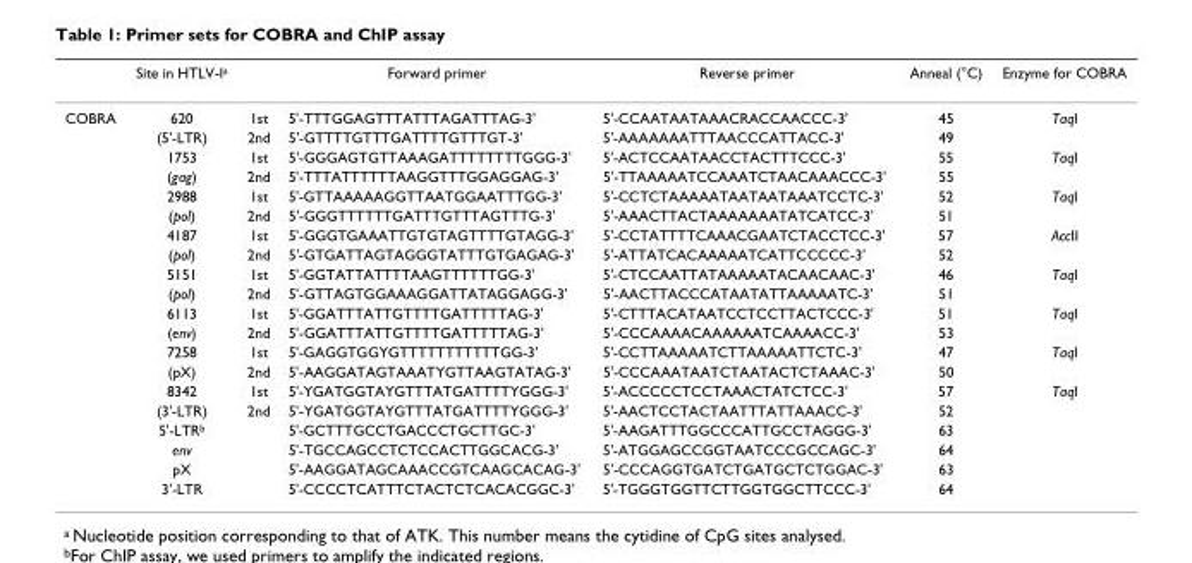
<table><thead><tr><td></td><td>Site in HTLV-I<sup>a</sup></td><td></td><td>Forward primer</td><td>Reverse primer</td><td>Anneal (°C)</td><td>Enzyme for COBRA</td></tr></thead><tbody><tr><td rowspan="20">COBRA</td><td>620</td><td>1st</td><td>5&#x27;-TTTGGAGTTTATTTAGATTTAG-3&#x27;</td><td>5&#x27;-CCAATAATAAACRACCAACCC-3&#x27;</td><td>45</td><td>TaqI</td></tr><tr><td>(5&#x27;-LTR)</td><td>2nd</td><td>5&#x27;-GTTTTGTTTGATTTTGTTTGT-3&#x27;</td><td>5&#x27;-AAAAAAATTTAACCCATTACC-3&#x27;</td><td>49</td><td></td></tr><tr><td>1753</td><td>1st</td><td>5&#x27;-GGGAGTGTTAAAGATTTTTTTTGGG-3&#x27;</td><td>5&#x27;-ACTCCAATAACCTACTTTCCC-3&#x27;</td><td>55</td><td>TaqI</td></tr><tr><td>(gag)</td><td>2nd</td><td>5&#x27;-TTTATTTTTTAAGGTTTGGAGGAG-3&#x27;</td><td>5&#x27;-TTAAAAATCCAAATCTAACAAACCC-3&#x27;</td><td>55</td><td></td></tr><tr><td>2988</td><td>1st</td><td>5&#x27;-GTTAAAAAGGTTAATGGAATTTGG-3&#x27;</td><td>5&#x27;-CCTCTAAAAATAATAATAAATCCTC-3&#x27;</td><td>52</td><td>TaqI</td></tr><tr><td>(pol)</td><td>2nd</td><td>5&#x27;-GGGTTTTTTGATTTGTTTAGTTTG-3&#x27;</td><td>5&#x27;-AAACTTACTAAAAAAATATCATCC-3&#x27;</td><td>51</td><td></td></tr><tr><td>4187</td><td>1st</td><td>5&#x27;-GGGTGAAATTGTGTAGTTTTGTAGG-3&#x27;</td><td>5&#x27;-CCTATTTTCAAACGAATCTACCTCC-3&#x27;</td><td>57</td><td>AccII</td></tr><tr><td>(pol)</td><td>2nd</td><td>5&#x27;-GTGATTAGTAGGGTATTTGTGAGAG-3&#x27;</td><td>5&#x27;-ATTATCACAAAAATCATTCCCCC-3&#x27;</td><td>52</td><td></td></tr><tr><td>5151</td><td>1st</td><td>5&#x27;-GGTATTATTTTAAGTTTTTTGG-3&#x27;</td><td>5&#x27;-CTCCAATTATAAAAATACAACAAC-3&#x27;</td><td>46</td><td>TaqI</td></tr><tr><td>(pol)</td><td>2nd</td><td>5&#x27;-GTTAGTGGAAAGGATTATAGGAGG-3&#x27;</td><td>5&#x27;-AACTTACCCATAATATTAAAAATC-3&#x27;</td><td>51</td><td></td></tr><tr><td>6113</td><td>1st</td><td>5&#x27;-GGATTTATTGTTTTGATTTTTAG-3&#x27;</td><td>5&#x27;-CTTTACATAATCCTCCTTACTCCC-3&#x27;</td><td>51</td><td>TaqI</td></tr><tr><td>(env)</td><td>2nd</td><td>5&#x27;-GGATTTATTGTTTTGATTTTTAG-3&#x27;</td><td>5&#x27;-CCCAAAACAAAAAATCAAAACC-3&#x27;</td><td>53</td><td></td></tr><tr><td>7258</td><td>1st</td><td>5&#x27;-GAGGTGGYGTTTTTTTTTTTGG-3&#x27;</td><td>5&#x27;-CCTTAAAAATCTTAAAAATTCTC-3&#x27;</td><td>47</td><td>TaqI</td></tr><tr><td>(pX)</td><td>2nd</td><td>5&#x27;-AAGGATAGTAAATYGTTAAGTATAG-3&#x27;</td><td>5&#x27;-CCCAAATAATCTAATACTCTAAAC-3&#x27;</td><td>50</td><td></td></tr><tr><td>8342</td><td>1st</td><td>5&#x27;-YGATGGTAYGTTTATGATTTTYGGG-3&#x27;</td><td>5&#x27;-ACCCCCTCCTAAACTATCTCC-3&#x27;</td><td>57</td><td>TaqI</td></tr><tr><td>(3&#x27;-LTR)</td><td>2nd</td><td>5&#x27;-YGATGGTAYGTTTATGATTTTYGGG-3&#x27;</td><td>5&#x27;-AACTCCTACTAATTTATTAAACC-3&#x27;</td><td>52</td><td></td></tr><tr><td>5&#x27;-LTR<sup>b</sup></td><td></td><td>5&#x27;-GCTTTGCCTGACCCTGCTTGC-3&#x27;</td><td>5&#x27;-AAGATTTGGCCCATTGCCTAGGG-3&#x27;</td><td>63</td><td></td></tr><tr><td>env</td><td></td><td>5&#x27;-TGCCAGCCTCTCCACTTGGCACG-3&#x27;</td><td>5&#x27;-ATGGAGCCGGTAATCCCGCCAGC-3&#x27;</td><td>64</td><td></td></tr><tr><td>pX</td><td></td><td>5&#x27;-AAGGATAGCAAACCGTCAAGCACAG-3&#x27;</td><td>5&#x27;-CCCAGGTGATCTGATGCTCTGGAC-3&#x27;</td><td>63</td><td></td></tr><tr><td>3&#x27;-LTR</td><td></td><td>5&#x27;-CCCCTCATTTCTACTCTCACACGGC-3&#x27;</td><td>5&#x27;-TGGGTGGTTCTTGGTGGCTTCCC-3&#x27;</td><td>64</td><td></td></tr></tbody></table>